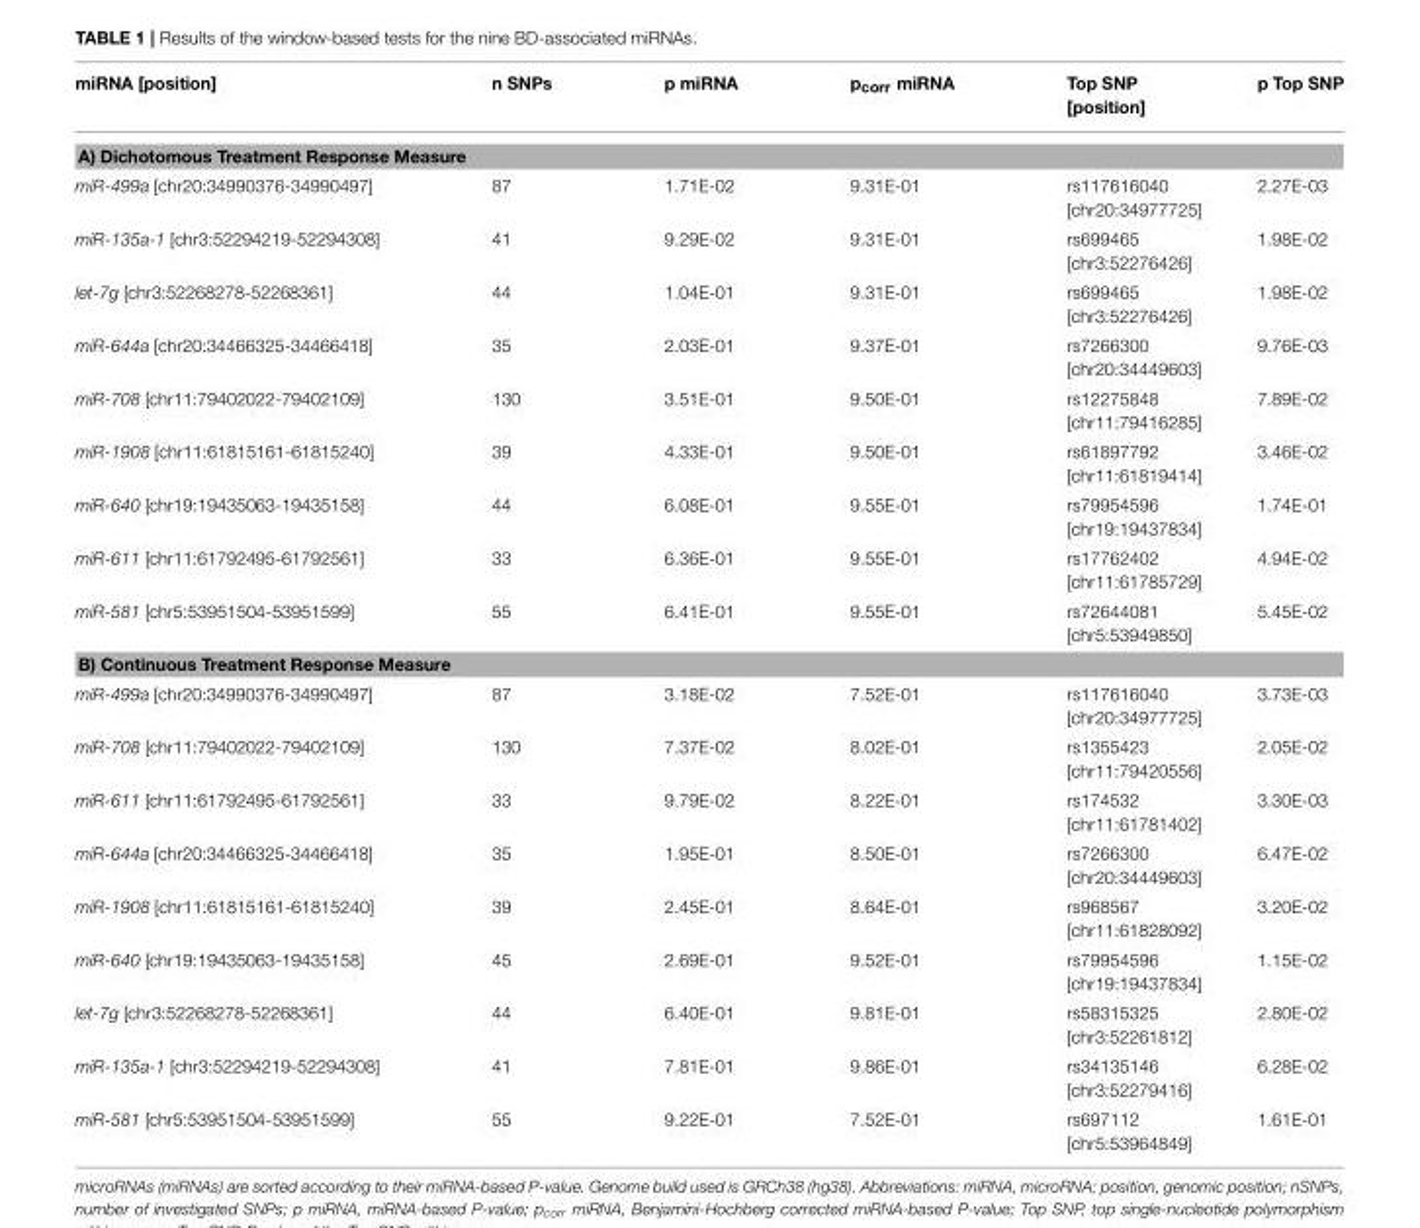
<table><thead><tr><td>miRNA [position]</td><td>n SNPs</td><td>p miRNA</td><td>p<sub>corr</sub> miRNA</td><td>Top SNP [position]</td><td>p Top SNP</td></tr></thead><tbody><tr><td colspan="6">A) Dichotomous Treatment Response Measure</td></tr><tr><td>miR-499a [chr20:34990376-34990497]</td><td>87</td><td>1.71E-02</td><td>9.31E-01</td><td>rs117616040 [chr20:34977725]</td><td>2.27E-03</td></tr><tr><td>miR-135a-1 [chr3:52294219-52294308]</td><td>41</td><td>9.29E-02</td><td>9.31E-01</td><td>rs699465 [chr3:52276426]</td><td>1.98E-02</td></tr><tr><td>let-7g [chr3:52268278-52268361]</td><td>44</td><td>1.04E-01</td><td>9.31E-01</td><td>rs699465 [chr3:52276426]</td><td>1.98E-02</td></tr><tr><td>miR-644a [chr20:34466325-34466418]</td><td>35</td><td>2.03E-01</td><td>9.37E-01</td><td>rs7266300 [chr20:34449603]</td><td>9.76E-03</td></tr><tr><td>miR-708 [chr11:79402022-79402109]</td><td>130</td><td>3.51E-01</td><td>9.50E-01</td><td>rs12275848 [chr11:79416285]</td><td>7.89E-02</td></tr><tr><td>miR-1908 [chr11:61815161-61815240]</td><td>39</td><td>4.33E-01</td><td>9.50E-01</td><td>rs61897792 [chr11:61819414]</td><td>3.46E-02</td></tr><tr><td>miR-640 [chr19:19435063-19435158]</td><td>44</td><td>6.08E-01</td><td>9.55E-01</td><td>rs79954596 [chr19:19437834]</td><td>1.74E-01</td></tr><tr><td>miR-611 [chr11:61792495-61792561]</td><td>33</td><td>6.36E-01</td><td>9.55E-01</td><td>rs17762402 [chr11:61785729]</td><td>4.94E-02</td></tr><tr><td>miR-581 [chr5:53951504-53951599]</td><td>55</td><td>6.41E-01</td><td>9.55E-01</td><td>rs72644081 [chr5:53949850]</td><td>5.45E-02</td></tr><tr><td colspan="6">B) Continuous Treatment Response Measure</td></tr><tr><td>miR-499a [chr20:34990376-34990497]</td><td>87</td><td>3.18E-02</td><td>7.52E-01</td><td>rs117616040 [chr20:34977725]</td><td>3.73E-03</td></tr><tr><td>miR-708 [chr11:79402022-79402109]</td><td>130</td><td>7.37E-02</td><td>8.02E-01</td><td>rs1355423 [chr11:79420556]</td><td>2.05E-02</td></tr><tr><td>miR-611 [chr11:61792495-61792561]</td><td>33</td><td>9.79E-02</td><td>8.22E-01</td><td>rs174532 [chr11:61781402]</td><td>3.30E-03</td></tr><tr><td>miR-644a [chr20:34466325-34466418]</td><td>35</td><td>1.95E-01</td><td>8.50E-01</td><td>rs7266300 [chr20:34449603]</td><td>6.47E-02</td></tr><tr><td>miR-1908 [chr11:61815161-61815240]</td><td>39</td><td>2.45E-01</td><td>8.64E-01</td><td>rs968567 [chr11:61828092]</td><td>3.20E-02</td></tr><tr><td>miR-640 [chr19:19435063-19435158]</td><td>45</td><td>2.69E-01</td><td>9.52E-01</td><td>rs79954596 [chr19:19437834]</td><td>1.15E-02</td></tr><tr><td>let-7g [chr3:52268278-52268361]</td><td>44</td><td>6.40E-01</td><td>9.81E-01</td><td>rs58315325 [chr3:52261812]</td><td>2.80E-02</td></tr><tr><td>miR-135a-1 [chr3:52294219-52294308]</td><td>41</td><td>7.81E-01</td><td>9.86E-01</td><td>rs34135146 [chr3:52279416]</td><td>6.28E-02</td></tr><tr><td>miR-581 [chr5:53951504-53951599]</td><td>55</td><td>9.22E-01</td><td>7.52E-01</td><td>rs697112 [chr5:53964849]</td><td>1.61E-01</td></tr></tbody></table>